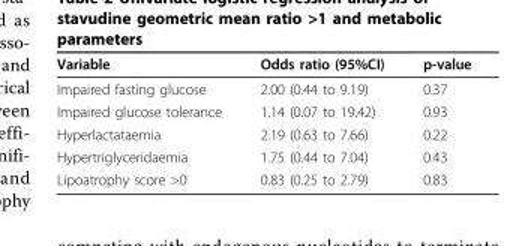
<table><thead><tr><td>Variable</td><td>Odds ratio (95%CI)</td><td>p-value</td></tr></thead><tbody><tr><td>Impaired fasting glucose</td><td>2.00 (0.44 to 9.19)</td><td>0.37</td></tr><tr><td>Impaired glucose tolerance</td><td>1.14 (0.07 to 19.42)</td><td>0.93</td></tr><tr><td>Hyperlactataemia</td><td>2.19 (0.63 to 7.66)</td><td>0.22</td></tr><tr><td>Hypertriglyceridaemia</td><td>1.75 (0.44 to 7.04)</td><td>0.43</td></tr><tr><td>Lipoatrophy score &gt;0</td><td>0.83 (0.25 to 2.79)</td><td>0.83</td></tr></tbody></table>